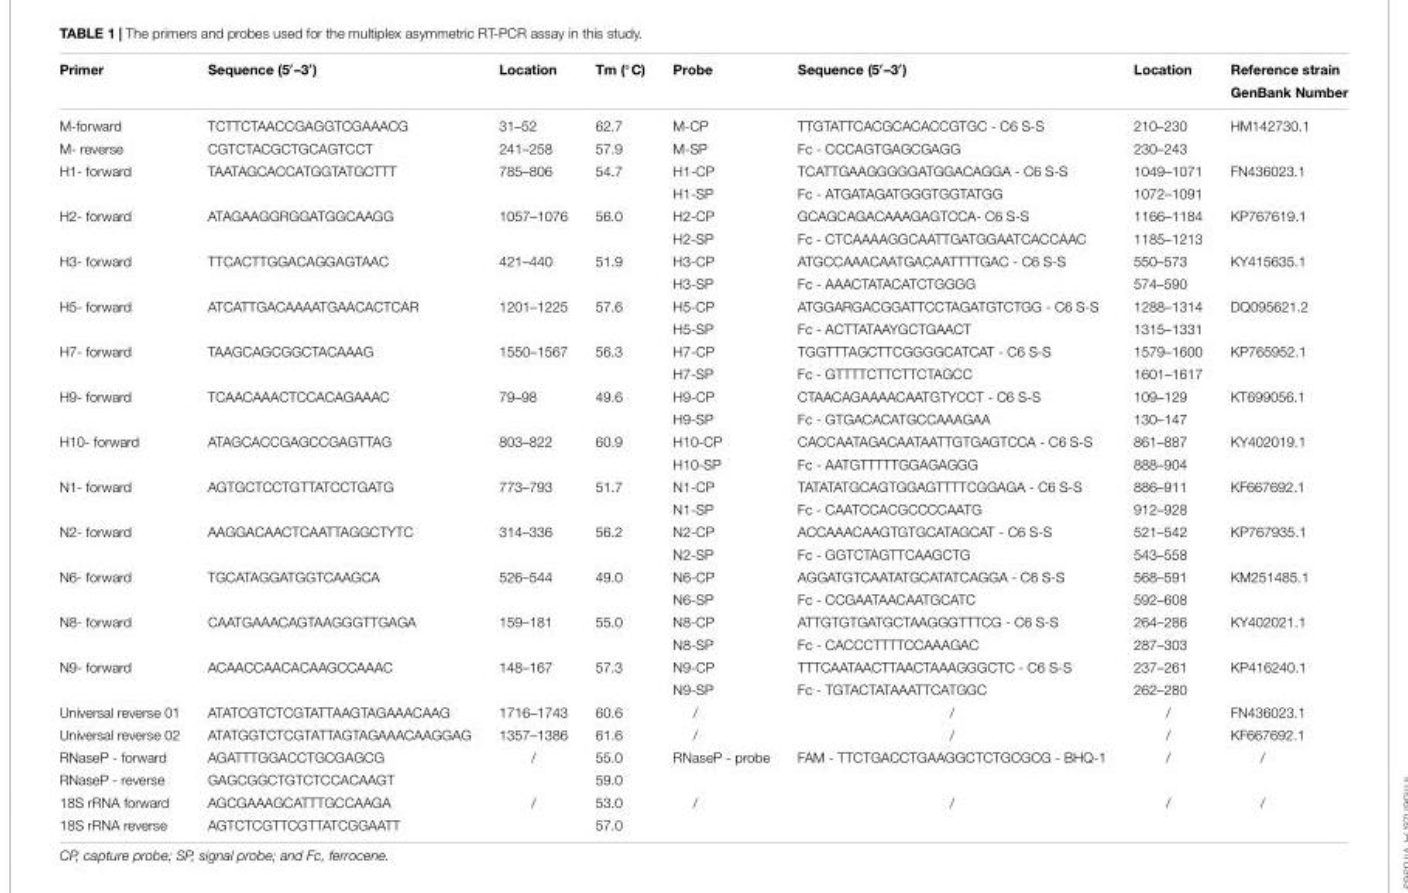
<table><thead><tr><td>Primer</td><td>Sequence (5′–3′)</td><td>Location</td><td>Tm (◦C)</td><td>Probe</td><td>Sequence (5′–3′)</td><td>Location</td><td>Reference strain GenBank Number</td></tr></thead><tbody><tr><td>M-forward</td><td>TCTTCTAACCGAGGTCGAAACG</td><td>31–52</td><td>62.7</td><td>M-CP</td><td>TTGTATTCACGCACACCGTGC - C6 S-S</td><td>210–230</td><td>HM142730.1</td></tr><tr><td>M- reverse</td><td>CGTCTACGCTGCAGTCCT</td><td>241–258</td><td>57.9</td><td>M-SP</td><td>Fc - CCCAGTGAGCGAGG</td><td>230–243</td><td></td></tr><tr><td rowspan="2">H1- forward</td><td>TAATAGCACCATGGTATGCTTT</td><td>785–806</td><td>54.7</td><td>H1-CP</td><td>TCATTGAAGGGGGATGGACAGGA - C6 S-S</td><td>1049–1071</td><td>FN436023.1</td></tr><tr><td></td><td></td><td></td><td>H1-SP</td><td>Fc - ATGATAGATGGGTGGTATGG</td><td>1072–1091</td><td></td></tr><tr><td rowspan="2">H2- forward</td><td>ATAGAAGGRGGATGGCAAGG</td><td>1057–1076</td><td>56.0</td><td>H2-CP</td><td>GCAGCAGACAAAGAGTCCA- C6 S-S</td><td>1166–1184</td><td>KP767619.1</td></tr><tr><td></td><td></td><td></td><td>H2-SP</td><td>Fc - CTCAAAAGGCAATTGATGGAATCACCAAC</td><td>1185–1213</td><td></td></tr><tr><td rowspan="2">H3- forward</td><td>TTCACTTGGACAGGAGTAAC</td><td>421–440</td><td>51.9</td><td>H3-CP</td><td>ATGCCAAACAATGACAATTTTGAC - C6 S-S</td><td>550–573</td><td>KY415635.1</td></tr><tr><td></td><td></td><td></td><td>H3-SP</td><td>Fc - AAACTATACATCTGGGG</td><td>574–590</td><td></td></tr><tr><td rowspan="2">H5- forward</td><td>ATCATTGACAAAATGAACACTCAR</td><td>1201–1225</td><td>57.6</td><td>H5-CP</td><td>ATGGARGACGGATTCCTAGATGTCTGG - C6 S-S</td><td>1288–1314</td><td>DQ095621.2</td></tr><tr><td></td><td></td><td></td><td>H5-SP</td><td>Fc - ACTTATAAYGCTGAACT</td><td>1315–1331</td><td></td></tr><tr><td rowspan="2">H7- forward</td><td>TAAGCAGCGGCTACAAAG</td><td>1550–1567</td><td>56.3</td><td>H7-CP</td><td>TGGTTTAGCTTCGGGGCATCAT - C6 S-S</td><td>1579–1600</td><td>KP765952.1</td></tr><tr><td></td><td></td><td></td><td>H7-SP</td><td>Fc - GTTTTCTTCTTCTAGCC</td><td>1601–1617</td><td></td></tr><tr><td rowspan="2">H9- forward</td><td>TCAACAAACTCCACAGAAAC</td><td>79–98</td><td>49.6</td><td>H9-CP</td><td>CTAACAGAAAACAATGTYCCT - C6 S-S</td><td>109–129</td><td>KT699056.1</td></tr><tr><td></td><td></td><td></td><td>H9-SP</td><td>Fc - GTGACACATGCCAAAGAA</td><td>130–147</td><td></td></tr><tr><td rowspan="2">H10- forward</td><td>ATAGCACCGAGCCGAGTTAG</td><td>803–822</td><td>60.9</td><td>H10-CP</td><td>CACCAATAGACAATAATTGTGAGTCCA - C6 S-S</td><td>861–887</td><td>KY402019.1</td></tr><tr><td></td><td></td><td></td><td>H10-SP</td><td>Fc - AATGTTTTTGGAGAGGG</td><td>888–904</td><td></td></tr><tr><td rowspan="2">N1- forward</td><td>AGTGCTCCTGTTATCCTGATG</td><td>773–793</td><td>51.7</td><td>N1-CP</td><td>TATATATGCAGTGGAGTTTTCGGAGA - C6 S-S</td><td>886–911</td><td>KF667692.1</td></tr><tr><td></td><td></td><td></td><td>N1-SP</td><td>Fc - CAATCCACGCCCCAATG</td><td>912–928</td><td></td></tr><tr><td rowspan="2">N2- forward</td><td>AAGGACAACTCAATTAGGCTYTC</td><td>314–336</td><td>56.2</td><td>N2-CP</td><td>ACCAAACAAGTGTGCATAGCAT - C6 S-S</td><td>521–542</td><td>KP767935.1</td></tr><tr><td></td><td></td><td></td><td>N2-SP</td><td>Fc - GGTCTAGTTCAAGCTG</td><td>543–558</td><td></td></tr><tr><td rowspan="2">N6- forward</td><td>TGCATAGGATGGTCAAGCA</td><td>526–544</td><td>49.0</td><td>N6-CP</td><td>AGGATGTCAATATGCATATCAGGA - C6 S-S</td><td>568–591</td><td>KM251485.1</td></tr><tr><td></td><td></td><td></td><td>N6-SP</td><td>Fc - CCGAATAACAATGCATC</td><td>592–608</td><td></td></tr><tr><td rowspan="2">N8- forward</td><td>CAATGAAACAGTAAGGGTTGAGA</td><td>159–181</td><td>55.0</td><td>N8-CP</td><td>ATTGTGTGATGCTAAGGGTTTCG - C6 S-S</td><td>264–286</td><td>KY402021.1</td></tr><tr><td></td><td></td><td></td><td>N8-SP</td><td>Fc - CACCCTTTTCCAAAGAC</td><td>287–303</td><td></td></tr><tr><td rowspan="2">N9- forward</td><td>ACAACCAACACAAGCCAAAC</td><td>148–167</td><td>57.3</td><td>N9-CP</td><td>TTTCAATAACTTAACTAAAGGGCTC - C6 S-S</td><td>237–261</td><td>KP416240.1</td></tr><tr><td></td><td></td><td></td><td>N9-SP</td><td>Fc - TGTACTATAAATTCATGGC</td><td>262–280</td><td></td></tr><tr><td>Universal reverse 01</td><td>ATATCGTCTCGTATTAAGTAGAAACAAG</td><td>1716–1743</td><td>60.6</td><td>/</td><td>/</td><td>/</td><td>FN436023.1</td></tr><tr><td>Universal reverse 02</td><td>ATATGGTCTCGTATTAGTAGAAACAAGGAG</td><td>1357–1386</td><td>61.6</td><td>/</td><td>/</td><td>/</td><td>KF667692.1</td></tr><tr><td>RNaseP - forward</td><td>AGATTTGGACCTGCGAGCG</td><td>/</td><td>55.0</td><td>RNaseP - probe</td><td>FAM - TTCTGACCTGAAGGCTCTGCGCG - BHQ-1</td><td>/</td><td>/</td></tr><tr><td>RNaseP - reverse</td><td>GAGCGGCTGTCTCCACAAGT</td><td></td><td>59.0</td><td></td><td></td><td></td><td></td></tr><tr><td>18S rRNA forward</td><td>AGCGAAAGCATTTGCCAAGA</td><td>/</td><td>53.0</td><td>/</td><td>/</td><td>/</td><td>/</td></tr><tr><td>18S rRNA reverse</td><td>AGTCTCGTTCGTTATCGGAATT</td><td></td><td>57.0</td><td></td><td></td><td></td><td></td></tr></tbody></table>